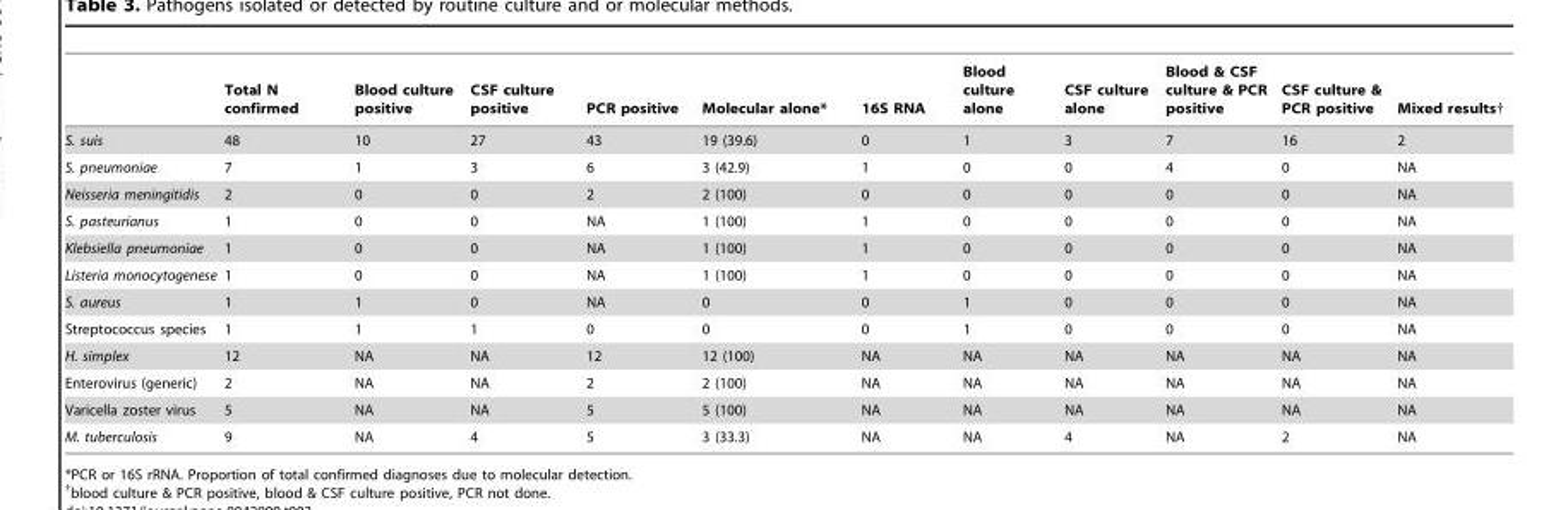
<table><thead><tr><td></td><td>Total N confirmed</td><td>Blood culture positive</td><td>CSF culture positive</td><td>PCR positive</td><td>Molecular alone*</td><td>16S RNA</td><td>Blood culture alone</td><td>CSF culture alone</td><td>Blood &amp; CSF culture &amp; PCR positive</td><td>CSF culture &amp; PCR positive</td><td>Mixed results†</td></tr></thead><tbody><tr><td>S. suis</td><td>48</td><td>10</td><td>27</td><td>43</td><td>19 (39.6)</td><td>0</td><td>1</td><td>3</td><td>7</td><td>16</td><td>2</td></tr><tr><td>S. pneumoniae</td><td>7</td><td>1</td><td>3</td><td>6</td><td>3 (42.9)</td><td>1</td><td>0</td><td>0</td><td>4</td><td>0</td><td>NA</td></tr><tr><td>Neisseria meningitidis</td><td>2</td><td>0</td><td>0</td><td>2</td><td>2 (100)</td><td>0</td><td>0</td><td>0</td><td>0</td><td>0</td><td>NA</td></tr><tr><td>S. pasteurianus</td><td>1</td><td>0</td><td>0</td><td>NA</td><td>1 (100)</td><td>1</td><td>0</td><td>0</td><td>0</td><td>0</td><td>NA</td></tr><tr><td>Klebsiella pneumoniae</td><td>1</td><td>0</td><td>0</td><td>NA</td><td>1 (100)</td><td>1</td><td>0</td><td>0</td><td>0</td><td>0</td><td>NA</td></tr><tr><td>Listeria monocytogenese</td><td>1</td><td>0</td><td>0</td><td>NA</td><td>1 (100)</td><td>1</td><td>0</td><td>0</td><td>0</td><td>0</td><td>NA</td></tr><tr><td>S. aureus</td><td>1</td><td>1</td><td>0</td><td>NA</td><td>0</td><td>0</td><td>1</td><td>0</td><td>0</td><td>0</td><td>NA</td></tr><tr><td>Streptococcus species</td><td>1</td><td>1</td><td>1</td><td>0</td><td>0</td><td>0</td><td>1</td><td>0</td><td>0</td><td>0</td><td>NA</td></tr><tr><td>H. simplex</td><td>12</td><td>NA</td><td>NA</td><td>12</td><td>12 (100)</td><td>NA</td><td>NA</td><td>NA</td><td>NA</td><td>NA</td><td>NA</td></tr><tr><td>Enterovirus (generic)</td><td>2</td><td>NA</td><td>NA</td><td>2</td><td>2 (100)</td><td>NA</td><td>NA</td><td>NA</td><td>NA</td><td>NA</td><td>NA</td></tr><tr><td>Varicella zoster virus</td><td>5</td><td>NA</td><td>NA</td><td>5</td><td>5 (100)</td><td>NA</td><td>NA</td><td>NA</td><td>NA</td><td>NA</td><td>NA</td></tr><tr><td>M. tuberculosis</td><td>9</td><td>NA</td><td>4</td><td>5</td><td>3 (33.3)</td><td>NA</td><td>NA</td><td>4</td><td>NA</td><td>2</td><td>NA</td></tr></tbody></table>